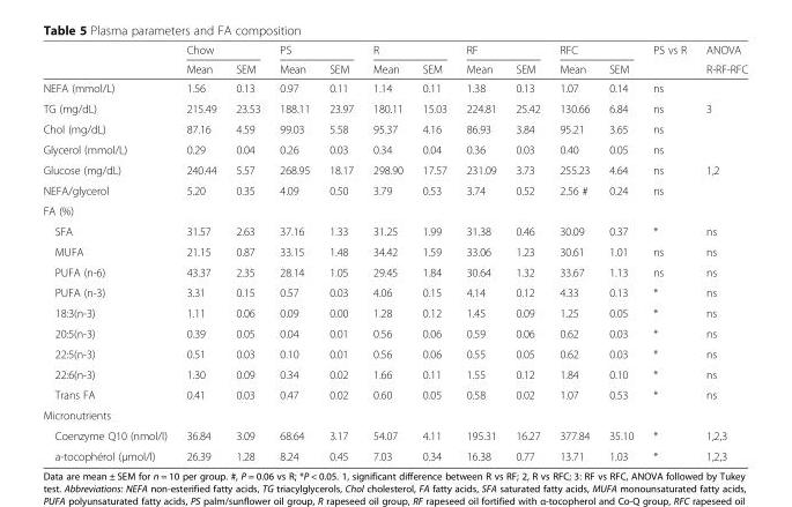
<table><thead><tr><td rowspan="2"></td><td colspan="2">Chow</td><td colspan="2">PS</td><td colspan="2">R</td><td colspan="2">RF</td><td colspan="2">RFC</td><td rowspan="2">PS vs R</td><td rowspan="2">ANOVA R-RF-RFC</td></tr><tr><td>Mean</td><td>SEM</td><td>Mean</td><td>SEM</td><td>Mean</td><td>SEM</td><td>Mean</td><td>SEM</td><td>Mean</td><td>SEM</td></tr></thead><tbody><tr><td>NEFA (mmol/L)</td><td>1.56</td><td>0.13</td><td>0.97</td><td>0.11</td><td>1.14</td><td>0.11</td><td>1.38</td><td>0.13</td><td>1.07</td><td>0.14</td><td>ns</td><td></td></tr><tr><td>TG (mg/dL)</td><td>215.49</td><td>23.53</td><td>188.11</td><td>23.97</td><td>180.11</td><td>15.03</td><td>224.81</td><td>25.42</td><td>130.66</td><td>6.84</td><td>ns</td><td>3</td></tr><tr><td>Chol (mg/dL)</td><td>87.16</td><td>4.59</td><td>99.03</td><td>5.58</td><td>95.37</td><td>4.16</td><td>86.93</td><td>3.84</td><td>95.21</td><td>3.65</td><td>ns</td><td></td></tr><tr><td>Glycerol (mmol/L)</td><td>0.29</td><td>0.04</td><td>0.26</td><td>0.03</td><td>0.34</td><td>0.04</td><td>0.36</td><td>0.03</td><td>0.40</td><td>0.05</td><td>ns</td><td></td></tr><tr><td>Glucose (mg/dL)</td><td>240.44</td><td>5.57</td><td>268.95</td><td>18.17</td><td>298.90</td><td>17.57</td><td>231.09</td><td>3.73</td><td>255.23</td><td>4.64</td><td>ns</td><td>1,2</td></tr><tr><td>NEFA/glycerol</td><td>5.20</td><td>0.35</td><td>4.09</td><td>0.50</td><td>3.79</td><td>0.53</td><td>3.74</td><td>0.52</td><td>2.56 #</td><td>0.24</td><td>ns</td><td></td></tr><tr><td colspan="13">FA (%)</td></tr><tr><td>SFA</td><td>31.57</td><td>2.63</td><td>37.16</td><td>1.33</td><td>31.25</td><td>1.99</td><td>31.38</td><td>0.46</td><td>30.09</td><td>0.37</td><td>*</td><td>ns</td></tr><tr><td>MUFA</td><td>21.15</td><td>0.87</td><td>33.15</td><td>1.48</td><td>34.42</td><td>1.59</td><td>33.06</td><td>1.23</td><td>30.61</td><td>1.01</td><td>ns</td><td>ns</td></tr><tr><td>PUFA (n-6)</td><td>43.37</td><td>2.35</td><td>28.14</td><td>1.05</td><td>29.45</td><td>1.84</td><td>30.64</td><td>1.32</td><td>33.67</td><td>1.13</td><td>ns</td><td>ns</td></tr><tr><td>PUFA (n-3)</td><td>3.31</td><td>0.15</td><td>0.57</td><td>0.03</td><td>4.06</td><td>0.15</td><td>4.14</td><td>0.12</td><td>4.33</td><td>0.13</td><td>*</td><td>ns</td></tr><tr><td>18:3(n-3)</td><td>1.11</td><td>0.06</td><td>0.09</td><td>0.00</td><td>1.28</td><td>0.12</td><td>1.45</td><td>0.09</td><td>1.25</td><td>0.05</td><td>*</td><td>ns</td></tr><tr><td>20:5(n-3)</td><td>0.39</td><td>0.05</td><td>0.04</td><td>0.01</td><td>0.56</td><td>0.06</td><td>0.59</td><td>0.06</td><td>0.62</td><td>0.03</td><td>*</td><td>ns</td></tr><tr><td>22:5(n-3)</td><td>0.51</td><td>0.03</td><td>0.10</td><td>0.01</td><td>0.56</td><td>0.06</td><td>0.55</td><td>0.05</td><td>0.62</td><td>0.03</td><td>*</td><td>ns</td></tr><tr><td>22:6(n-3)</td><td>1.30</td><td>0.09</td><td>0.34</td><td>0.02</td><td>1.66</td><td>0.11</td><td>1.55</td><td>0.12</td><td>1.84</td><td>0.10</td><td>*</td><td>ns</td></tr><tr><td>Trans FA</td><td>0.41</td><td>0.03</td><td>0.47</td><td>0.02</td><td>0.60</td><td>0.05</td><td>0.58</td><td>0.02</td><td>1.07</td><td>0.53</td><td>*</td><td>ns</td></tr><tr><td colspan="13">Micronutrients</td></tr><tr><td>Coenzyme Q10 (nmol/l)</td><td>36.84</td><td>3.09</td><td>68.64</td><td>3.17</td><td>54.07</td><td>4.11</td><td>195.31</td><td>16.27</td><td>377.84</td><td>35.10</td><td>*</td><td>1,2,3</td></tr><tr><td>a-tocophérol (μmol/l)</td><td>26.39</td><td>1.28</td><td>8.24</td><td>0.45</td><td>7.03</td><td>0.34</td><td>16.38</td><td>0.77</td><td>13.71</td><td>1.03</td><td>*</td><td>1,2,3</td></tr></tbody></table>